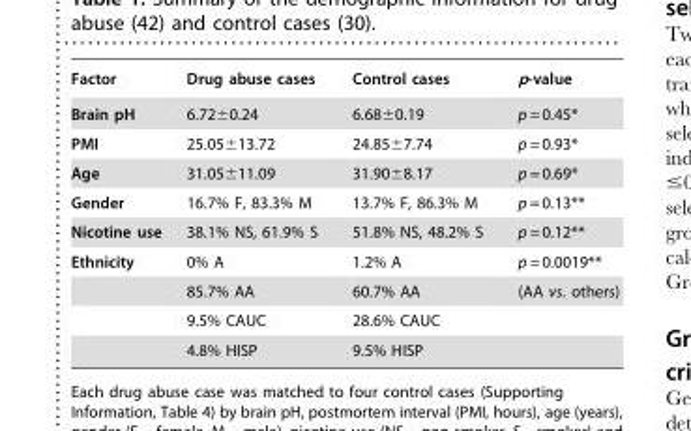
<table><thead><tr><td>Factor</td><td>Drug abuse cases</td><td>Control cases</td><td>p-value</td></tr></thead><tbody><tr><td>Brain pH</td><td>6.72±0.24</td><td>6.68±0.19</td><td>p = 0.45*</td></tr><tr><td>PMI</td><td>25.05±13.72</td><td>24.85±7.74</td><td>p = 0.93*</td></tr><tr><td>Age</td><td>31.05±11.09</td><td>31.90±8.17</td><td>p = 0.69*</td></tr><tr><td>Gender</td><td>16.7% F, 83.3% M</td><td>13.7% F, 86.3% M</td><td>p = 0.13**</td></tr><tr><td>Nicotine use</td><td>38.1% NS, 61.9% S</td><td>51.8% NS, 48.2% S</td><td>p = 0.12**</td></tr><tr><td rowspan="4">Ethnicity</td><td>0% A</td><td>1.2% A</td><td>p = 0.0019**</td></tr><tr><td>85.7% AA</td><td>60.7% AA</td><td>(AA vs. others)</td></tr><tr><td>9.5% CAUC</td><td>28.6% CAUC</td><td></td></tr><tr><td>4.8% HISP</td><td>9.5% HISP</td><td></td></tr></tbody></table>